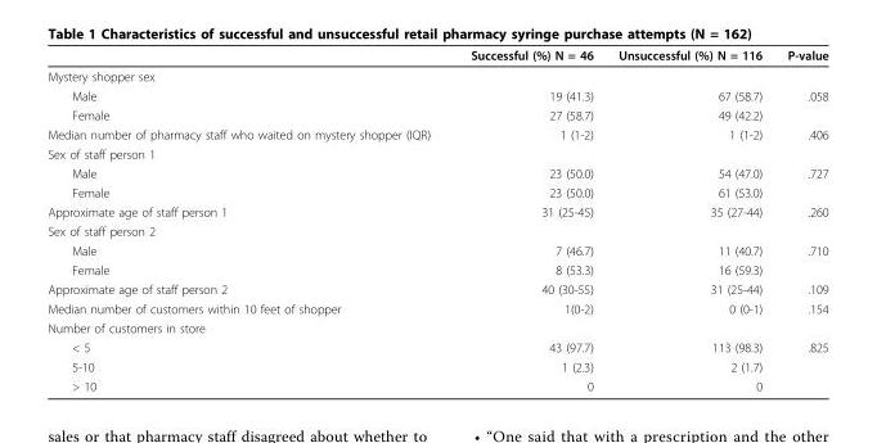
<table><thead><tr><td></td><td>Successful (%) N = 46</td><td>Unsuccessful (%) N = 116</td><td>P-value</td></tr></thead><tbody><tr><td colspan="4">Mystery shopper sex</td></tr><tr><td>Male</td><td>19 (41.3)</td><td>67 (58.7)</td><td>.058</td></tr><tr><td>Female</td><td>27 (58.7)</td><td>49 (42.2)</td><td></td></tr><tr><td>Median number of pharmacy staff who waited on mystery shopper (IQR)</td><td>1 (1-2)</td><td>1 (1-2)</td><td>.406</td></tr><tr><td colspan="4">Sex of staff person 1</td></tr><tr><td>Male</td><td>23 (50.0)</td><td>54 (47.0)</td><td>.727</td></tr><tr><td>Female</td><td>23 (50.0)</td><td>61 (53.0)</td><td></td></tr><tr><td>Approximate age of staff person 1</td><td>31 (25-45)</td><td>35 (27-44)</td><td>.260</td></tr><tr><td colspan="4">Sex of staff person 2</td></tr><tr><td>Male</td><td>7 (46.7)</td><td>11 (40.7)</td><td>.710</td></tr><tr><td>Female</td><td>8 (53.3)</td><td>16 (59.3)</td><td></td></tr><tr><td>Approximate age of staff person 2</td><td>40 (30-55)</td><td>31 (25-44)</td><td>.109</td></tr><tr><td>Median number of customers within 10 feet of shopper</td><td>1(0-2)</td><td>0 (0-1)</td><td>.154</td></tr><tr><td colspan="4">Number of customers in store</td></tr><tr><td>&lt; 5</td><td>43 (97.7)</td><td>113 (98.3)</td><td>.825</td></tr><tr><td>5-10</td><td>1 (2.3)</td><td>2 (1.7)</td><td></td></tr><tr><td>&gt; 10</td><td>0</td><td>0</td><td></td></tr></tbody></table>